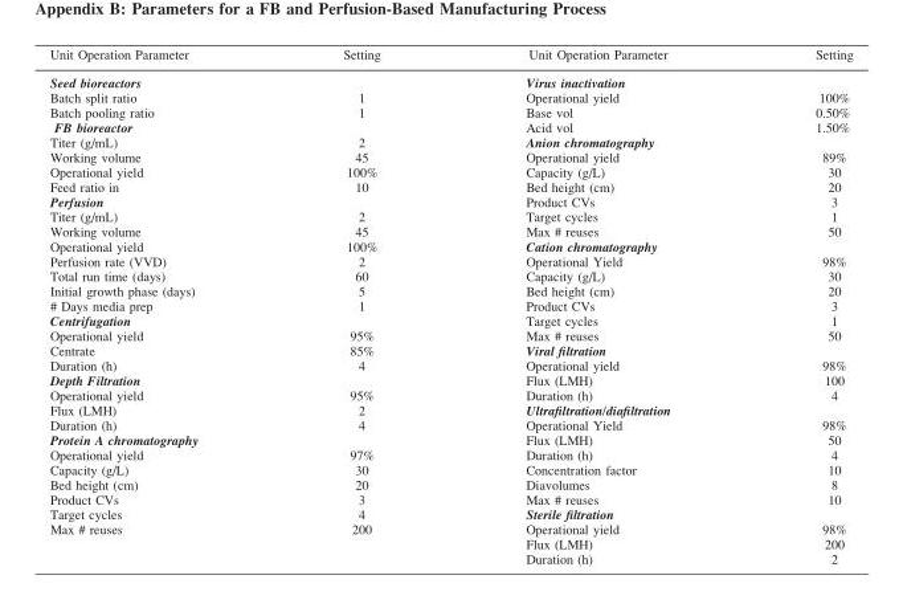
<table><thead><tr><td>Unit Operation Parameter</td><td>Setting</td><td>Unit Operation Parameter</td><td>Setting</td></tr></thead><tbody><tr><td>Seed bioreactors</td><td></td><td>Virus inactivation</td><td></td></tr><tr><td>Batch split ratio</td><td>1</td><td>Operational yield</td><td>100%</td></tr><tr><td>Batch pooling ratio</td><td>1</td><td>Base vol</td><td>0.50%</td></tr><tr><td>FB bioreactor</td><td></td><td>Acid vol</td><td>1.50%</td></tr><tr><td>Titer (g/mL)</td><td>2</td><td>Anion chromatography</td><td></td></tr><tr><td>Working volume</td><td>45</td><td>Operational yield</td><td>89%</td></tr><tr><td>Operational yield</td><td>100%</td><td>Capacity (g/L)</td><td>30</td></tr><tr><td>Feed ratio in</td><td>10</td><td>Bed height (cm)</td><td>20</td></tr><tr><td>Perfusion</td><td></td><td>Product CVs</td><td>3</td></tr><tr><td>Titer (g/mL)</td><td>2</td><td>Target cycles</td><td>1</td></tr><tr><td>Working volume</td><td>45</td><td>Max # reuses</td><td>50</td></tr><tr><td>Operational yield</td><td>100%</td><td>Cation chromatography</td><td></td></tr><tr><td>Perfusion rate (VVD)</td><td>2</td><td>Operational Yield</td><td>98%</td></tr><tr><td>Total run time (days)</td><td>60</td><td>Capacity (g/L)</td><td>30</td></tr><tr><td>Initial growth phase (days)</td><td>5</td><td>Bed height (cm)</td><td>20</td></tr><tr><td># Days media prep</td><td>1</td><td>Product CVs</td><td>3</td></tr><tr><td>Centrifugation</td><td></td><td>Target cycles</td><td>1</td></tr><tr><td>Operational yield</td><td>95%</td><td>Max # reuses</td><td>50</td></tr><tr><td>Centrate</td><td>85%</td><td>Viral filtration</td><td></td></tr><tr><td>Duration (h)</td><td>4</td><td>Operational yield</td><td>98%</td></tr><tr><td>Depth Filtration</td><td></td><td>Flux (LMH)</td><td>100</td></tr><tr><td>Operational yield</td><td>95%</td><td>Duration (h)</td><td>4</td></tr><tr><td>Flux (LMH)</td><td>2</td><td>Ultrafiltration/diafiltration</td><td></td></tr><tr><td>Duration (h)</td><td>4</td><td>Operational Yield</td><td>98%</td></tr><tr><td>Protein A chromatography</td><td></td><td>Flux (LMH)</td><td>50</td></tr><tr><td>Operational yield</td><td>97%</td><td>Duration (h)</td><td>4</td></tr><tr><td>Capacity (g/L)</td><td>30</td><td>Concentration factor</td><td>10</td></tr><tr><td>Bed height (cm)</td><td>20</td><td>Diavolumes</td><td>8</td></tr><tr><td>Product CVs</td><td>3</td><td>Max # reuses</td><td>10</td></tr><tr><td>Target cycles</td><td>4</td><td>Sterile filtration</td><td></td></tr><tr><td rowspan="3">Max # reuses</td><td>200</td><td>Operational yield</td><td>98%</td></tr><tr><td></td><td>Flux (LMH)</td><td>200</td></tr><tr><td></td><td>Duration (h)</td><td>2</td></tr></tbody></table>